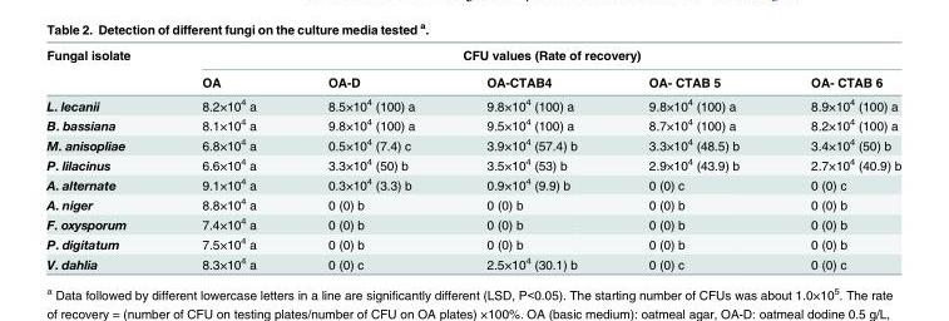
<table><thead><tr><td rowspan="2">Fungal isolate</td><td colspan="5">CFU values (Rate of recovery)</td></tr><tr><td>OA</td><td>OA-D</td><td>OA-CTAB4</td><td>OA- CTAB 5</td><td>OA- CTAB 6</td></tr></thead><tbody><tr><td>L. lecanii</td><td>8.2×10<sup>4</sup> a</td><td>8.5×10<sup>4</sup> (100) a</td><td>9.8×10<sup>4</sup> (100) a</td><td>9.8×10<sup>4</sup> (100) a</td><td>8.9×10<sup>4</sup> (100) a</td></tr><tr><td>B. bassiana</td><td>8.1×10<sup>4</sup> a</td><td>9.8×10<sup>4</sup> (100) a</td><td>9.5×10<sup>4</sup> (100) a</td><td>8.7×10<sup>4</sup> (100) a</td><td>8.2×10<sup>4</sup> (100) a</td></tr><tr><td>M. anisopliae</td><td>6.8×10<sup>4</sup> a</td><td>0.5×10<sup>4</sup> (7.4) c</td><td>3.9×10<sup>4</sup> (57.4) b</td><td>3.3×10<sup>4</sup> (48.5) b</td><td>3.4×10<sup>4</sup> (50) b</td></tr><tr><td>P. lilacinus</td><td>6.6×10<sup>4</sup> a</td><td>3.3×10<sup>4</sup> (50) b</td><td>3.5×10<sup>4</sup> (53) b</td><td>2.9×10<sup>4</sup> (43.9) b</td><td>2.7×10<sup>4</sup> (40.9) b</td></tr><tr><td>A. alternate</td><td>9.1×10<sup>4</sup> a</td><td>0.3×10<sup>4</sup> (3.3) b</td><td>0.9×10<sup>4</sup> (9.9) b</td><td>0 (0) c</td><td>0 (0) c</td></tr><tr><td>A. niger</td><td>8.8×10<sup>4</sup> a</td><td>0 (0) b</td><td>0 (0) b</td><td>0 (0) b</td><td>0 (0) b</td></tr><tr><td>F. oxysporum</td><td>7.4×10<sup>4</sup> a</td><td>0 (0) b</td><td>0 (0) b</td><td>0 (0) b</td><td>0 (0) b</td></tr><tr><td>P. digitatum</td><td>7.5×10<sup>4</sup> a</td><td>0 (0) b</td><td>0 (0) b</td><td>0 (0) b</td><td>0 (0) b</td></tr><tr><td>V. dahlia</td><td>8.3×10<sup>4</sup> a</td><td>0 (0) c</td><td>2.5×10<sup>4</sup> (30.1) b</td><td>0 (0) c</td><td>0 (0) c</td></tr></tbody></table>